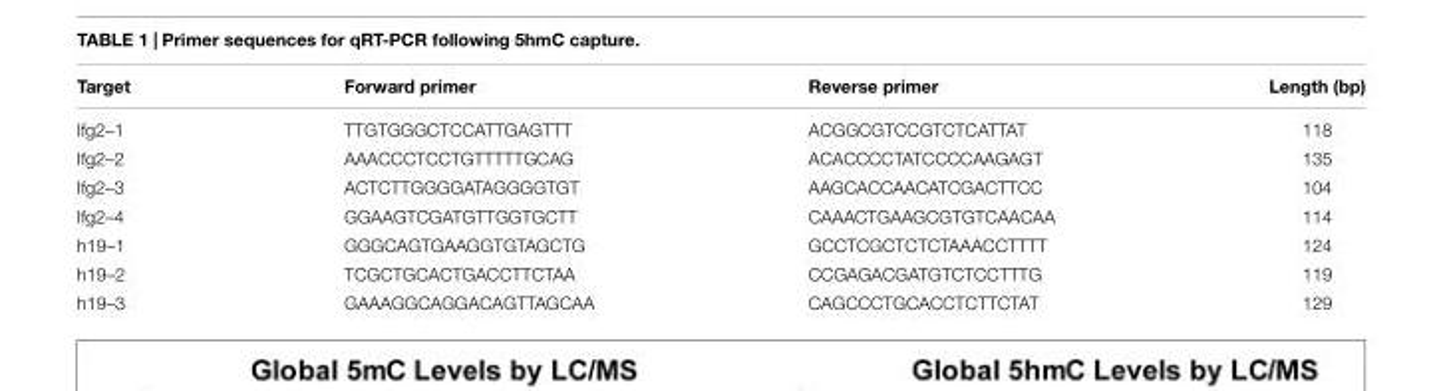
<table><thead><tr><td>Target</td><td>Forward primer</td><td>Reverse primer</td><td>Length (bp)</td></tr></thead><tbody><tr><td>Ifg2–1</td><td>TTGTGGGCTCCATTGAGTTT</td><td>ACGGCGTCCGTCTCATTAT</td><td>118</td></tr><tr><td>Ifg2–2</td><td>AAACCCTCCTGTTTTTGCAG</td><td>ACACCCCTATCCCCAAGAGT</td><td>135</td></tr><tr><td>Ifg2–3</td><td>ACTCTTGGGGATAGGGGTGT</td><td>AAGCACCAACATCGACTTCC</td><td>104</td></tr><tr><td>Ifg2–4</td><td>GGAAGTCGATGTTGGTGCTT</td><td>CAAACTGAAGCGTGTCAACAA</td><td>114</td></tr><tr><td>h19–1</td><td>GGGCAGTGAAGGTGTAGCTG</td><td>GCCTCGCTCTCTAAACCTTTT</td><td>124</td></tr><tr><td>h19–2</td><td>TCGCTGCACTGACCTTCTAA</td><td>CCGAGACGATGTCTCCTTTG</td><td>119</td></tr><tr><td>h19–3</td><td>GAAAGGCAGGACAGTTAGCAA</td><td>CAGCCCTGCACCTCTTCTAT</td><td>129</td></tr></tbody></table>